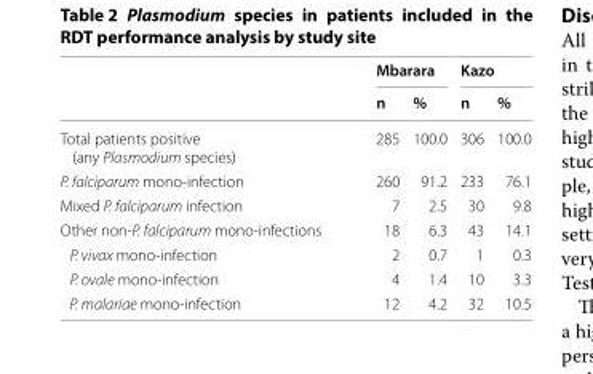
<table><thead><tr><td rowspan="2"></td><td colspan="2">Mbarara</td><td colspan="2">Kazo</td></tr><tr><td>n</td><td>%</td><td>n</td><td>%</td></tr></thead><tbody><tr><td>Total patients positive (any Plasmodium species)</td><td>285</td><td>100.0</td><td>306</td><td>100.0</td></tr><tr><td>P. falciparum mono‑infection</td><td>260</td><td>91.2</td><td>233</td><td>76.1</td></tr><tr><td>Mixed P. falciparum infection</td><td>7</td><td>2.5</td><td>30</td><td>9.8</td></tr><tr><td>Other non‑P. falciparum mono‑infections</td><td>18</td><td>6.3</td><td>43</td><td>14.1</td></tr><tr><td>P. vivax mono‑infection</td><td>2</td><td>0.7</td><td>1</td><td>0.3</td></tr><tr><td>P. ovale mono‑infection</td><td>4</td><td>1.4</td><td>10</td><td>3.3</td></tr><tr><td>P. malariae mono‑infection</td><td>12</td><td>4.2</td><td>32</td><td>10.5</td></tr></tbody></table>